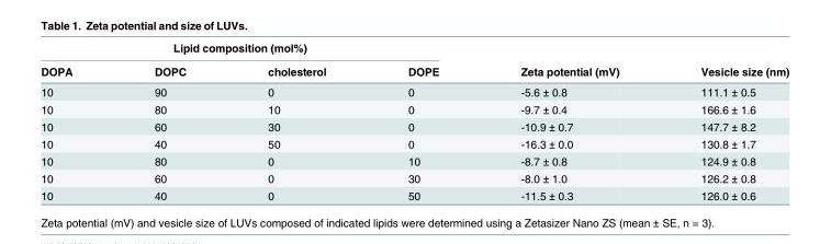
<table><thead><tr><td colspan="4">Lipid composition (mol%)</td><td rowspan="2">Zeta potential (mV)</td><td rowspan="2">Vesicle size (nm)</td></tr><tr><td>DOPA</td><td>DOPC</td><td>cholesterol</td><td>DOPE</td></tr></thead><tbody><tr><td>10</td><td>90</td><td>0</td><td>0</td><td>-5.6 ± 0.8</td><td>111.1 ± 0.5</td></tr><tr><td>10</td><td>80</td><td>10</td><td>0</td><td>-9.7 ± 0.4</td><td>166.6 ± 1.6</td></tr><tr><td>10</td><td>60</td><td>30</td><td>0</td><td>-10.9 ± 0.7</td><td>147.7 ± 8.2</td></tr><tr><td>10</td><td>40</td><td>50</td><td>0</td><td>-16.3 ± 0.0</td><td>130.8 ± 1.7</td></tr><tr><td>10</td><td>80</td><td>0</td><td>10</td><td>-8.7 ± 0.8</td><td>124.9 ± 0.8</td></tr><tr><td>10</td><td>60</td><td>0</td><td>30</td><td>-8.0 ± 1.0</td><td>126.2 ± 0.8</td></tr><tr><td>10</td><td>40</td><td>0</td><td>50</td><td>-11.5 ± 0.3</td><td>126.0 ± 0.6</td></tr></tbody></table>